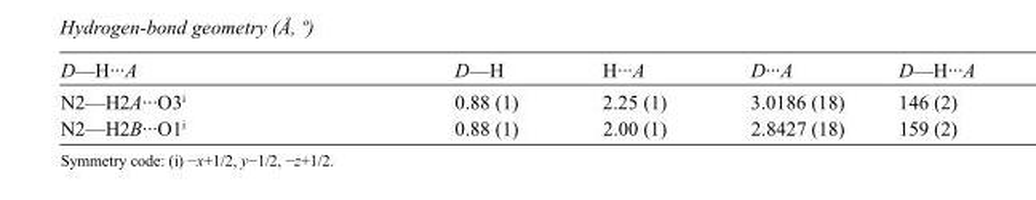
<table><tbody><tr><td>D—H···A</td><td>D—H</td><td>H···A</td><td>D···A</td><td>D—H···A</td></tr><tr><td>N2—H2A···O3<sup>i</sup></td><td>0.88 (1)</td><td>2.25 (1)</td><td>3.0186 (18)</td><td>146 (2)</td></tr><tr><td>N2—H2B···O1<sup>i</sup></td><td>0.88 (1)</td><td>2.00 (1)</td><td>2.8427 (18)</td><td>159 (2)</td></tr></tbody></table>